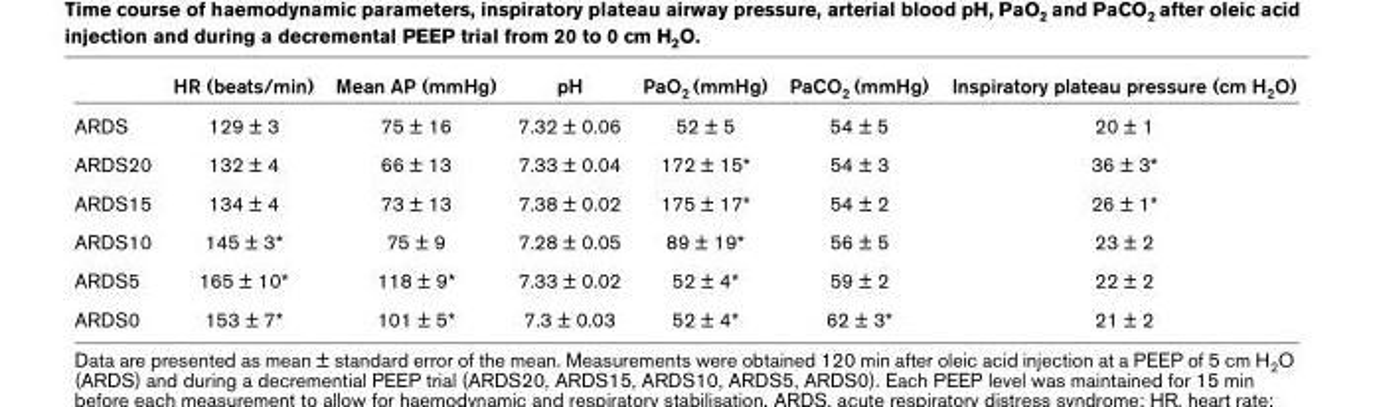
<table><thead><tr><td></td><td>HR (beats/min)</td><td>Mean AP (mmHg)</td><td>pH</td><td>PaO<sub>2</sub> (mmHg)</td><td>PaCO<sub>2</sub> (mmHg)</td><td>Inspiratory plateau pressure (cm H<sub>2</sub>O)</td></tr></thead><tbody><tr><td>ARDS</td><td>129 ± 3</td><td>75 ± 16</td><td>7.32 ± 0.06</td><td>52 ± 5</td><td>54 ± 5</td><td>20 ± 1</td></tr><tr><td>ARDS20</td><td>132 ± 4</td><td>66 ± 13</td><td>7.33 ± 0.04</td><td>172 ± 15*</td><td>54 ± 3</td><td>36 ± 3*</td></tr><tr><td>ARDS15</td><td>134 ± 4</td><td>73 ± 13</td><td>7.38 ± 0.02</td><td>175 ± 17*</td><td>54 ± 2</td><td>26 ± 1*</td></tr><tr><td>ARDS10</td><td>145 ± 3*</td><td>75 ± 9</td><td>7.28 ± 0.05</td><td>89 ± 19*</td><td>56 ± 5</td><td>23 ± 2</td></tr><tr><td>ARDS5</td><td>165 ± 10*</td><td>118 ± 9*</td><td>7.33 ± 0.02</td><td>52 ± 4*</td><td>59 ± 2</td><td>22 ± 2</td></tr><tr><td>ARDS0</td><td>153 ± 7*</td><td>101 ± 5*</td><td>7.3 ± 0.03</td><td>52 ± 4*</td><td>62 ± 3*</td><td>21 ± 2</td></tr></tbody></table>